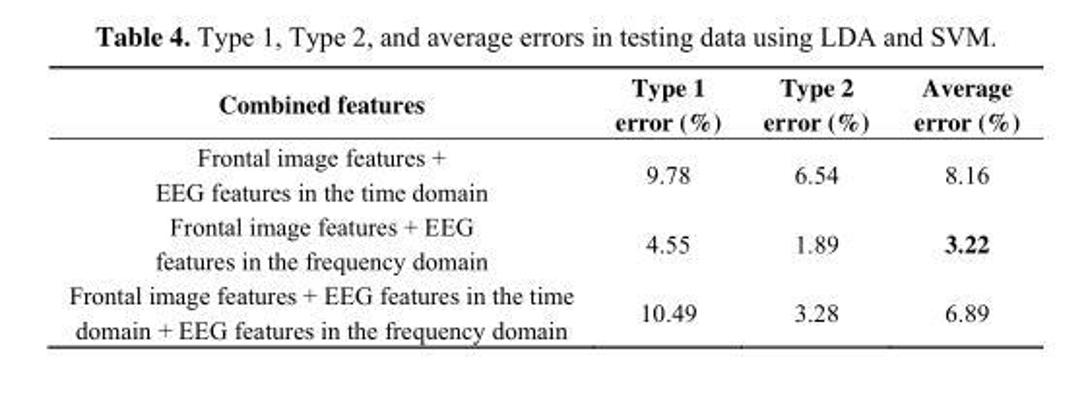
<table><thead><tr><td>Combined features</td><td>Type 1 error (%)</td><td>Type 2 error (%)</td><td>Average error (%)</td></tr></thead><tbody><tr><td>Frontal image features + EEG features in the time domain</td><td>9.78</td><td>6.54</td><td>8.16</td></tr><tr><td>Frontal image features + EEG features in the frequency domain</td><td>4.55</td><td>1.89</td><td>3.22</td></tr><tr><td>Frontal image features + EEG features in the time domain + EEG features in the frequency domain</td><td>10.49</td><td>3.28</td><td>6.89</td></tr></tbody></table>